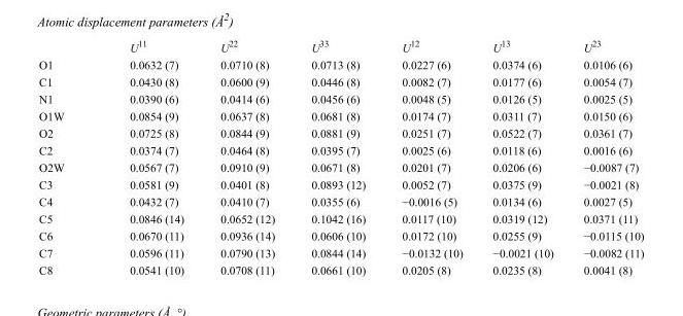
<table><thead><tr><td></td><td>U<sup>11</sup></td><td>U<sup>22</sup></td><td>U<sup>33</sup></td><td>U<sup>12</sup></td><td>U<sup>13</sup></td><td>U<sup>23</sup></td></tr></thead><tbody><tr><td>O1</td><td>0.0632 (7)</td><td>0.0710 (8)</td><td>0.0713 (8)</td><td>0.0227 (6)</td><td>0.0374 (6)</td><td>0.0106 (6)</td></tr><tr><td>C1</td><td>0.0430 (8)</td><td>0.0600 (9)</td><td>0.0446 (8)</td><td>0.0082 (7)</td><td>0.0177 (6)</td><td>0.0054 (7)</td></tr><tr><td>N1</td><td>0.0390 (6)</td><td>0.0414 (6)</td><td>0.0456 (6)</td><td>0.0048 (5)</td><td>0.0126 (5)</td><td>0.0025 (5)</td></tr><tr><td>O1W</td><td>0.0854 (9)</td><td>0.0637 (8)</td><td>0.0681 (8)</td><td>0.0174 (7)</td><td>0.0311 (7)</td><td>0.0150 (6)</td></tr><tr><td>O2</td><td>0.0725 (8)</td><td>0.0844 (9)</td><td>0.0881 (9)</td><td>0.0251 (7)</td><td>0.0522 (7)</td><td>0.0361 (7)</td></tr><tr><td>C2</td><td>0.0374 (7)</td><td>0.0464 (8)</td><td>0.0395 (7)</td><td>0.0025 (6)</td><td>0.0118 (6)</td><td>0.0016 (6)</td></tr><tr><td>O2W</td><td>0.0567 (7)</td><td>0.0910 (9)</td><td>0.0671 (8)</td><td>0.0201 (7)</td><td>0.0206 (6)</td><td>−0.0087 (7)</td></tr><tr><td>C3</td><td>0.0581 (9)</td><td>0.0401 (8)</td><td>0.0893 (12)</td><td>0.0052 (7)</td><td>0.0375 (9)</td><td>−0.0021 (8)</td></tr><tr><td>C4</td><td>0.0432 (7)</td><td>0.0410 (7)</td><td>0.0355 (6)</td><td>−0.0016 (5)</td><td>0.0134 (6)</td><td>0.0027 (5)</td></tr><tr><td>C5</td><td>0.0846 (14)</td><td>0.0652 (12)</td><td>0.1042 (16)</td><td>0.0117 (10)</td><td>0.0319 (12)</td><td>0.0371 (11)</td></tr><tr><td>C6</td><td>0.0670 (11)</td><td>0.0936 (14)</td><td>0.0606 (10)</td><td>0.0172 (10)</td><td>0.0255 (9)</td><td>−0.0115 (10)</td></tr><tr><td>C7</td><td>0.0596 (11)</td><td>0.0790 (13)</td><td>0.0844 (14)</td><td>−0.0132 (10)</td><td>−0.0021 (10)</td><td>−0.0082 (11)</td></tr><tr><td>C8</td><td>0.0541 (10)</td><td>0.0708 (11)</td><td>0.0661 (10)</td><td>0.0205 (8)</td><td>0.0235 (8)</td><td>0.0041 (8)</td></tr></tbody></table>